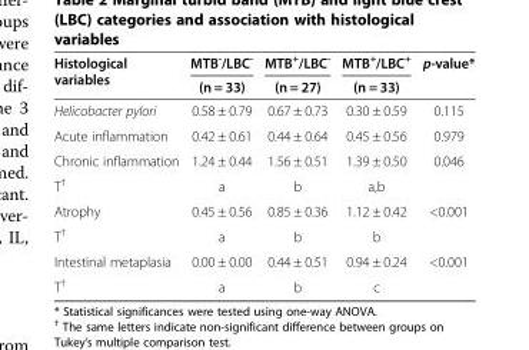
<table><thead><tr><td rowspan="2">Histological variables</td><td rowspan="2">MTB<sup>-</sup>/LBC<sup>-</sup> (n = 33)</td><td rowspan="2">MTB<sup>+</sup>/LBC<sup>-</sup> (n = 27)</td><td rowspan="2">MTB<sup>+</sup>/LBC<sup>+</sup> (n = 33)</td><td rowspan="2">p-value*</td></tr><tr></tr></thead><tbody><tr><td>Helicobacter pylori</td><td>0.58 ± 0.79</td><td>0.67 ± 0.73</td><td>0.30 ± 0.59</td><td>0.115</td></tr><tr><td>Acute inflammation</td><td>0.42 ± 0.61</td><td>0.44 ± 0.64</td><td>0.45 ± 0.56</td><td>0.979</td></tr><tr><td>Chronic inflammation</td><td>1.24 ± 0.44</td><td>1.56 ± 0.51</td><td>1.39 ± 0.50</td><td>0.046</td></tr><tr><td>T<sup>†</sup></td><td>a</td><td>b</td><td>a,b</td><td></td></tr><tr><td>Atrophy</td><td>0.45 ± 0.56</td><td>0.85 ± 0.36</td><td>1.12 ± 0.42</td><td>&lt;0.001</td></tr><tr><td>T<sup>†</sup></td><td>a</td><td>b</td><td>b</td><td></td></tr><tr><td>Intestinal metaplasia</td><td>0.00 ± 0.00</td><td>0.44 ± 0.51</td><td>0.94 ± 0.24</td><td>&lt;0.001</td></tr><tr><td>T<sup>†</sup></td><td>a</td><td>b</td><td>c</td><td></td></tr></tbody></table>